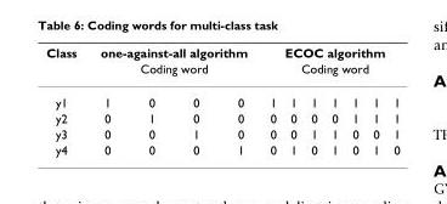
<table><thead><tr><td rowspan="3">Class y1</td><td rowspan="2" colspan="4">one-against-all algorithm Coding word</td><td rowspan="2" colspan="7">ECOC algorithm Coding word</td></tr><tr></tr><tr><td>1</td><td>0</td><td>0</td><td>0</td><td>1</td><td>1</td><td>1</td><td>1</td><td>1</td><td>1</td><td>1</td></tr></thead><tbody><tr><td>y2</td><td>0</td><td>1</td><td>0</td><td>0</td><td>0</td><td>0</td><td>0</td><td>0</td><td>1</td><td>1</td><td>1</td></tr><tr><td>y3</td><td>0</td><td>0</td><td>1</td><td>0</td><td>0</td><td>0</td><td>1</td><td>1</td><td>0</td><td>0</td><td>1</td></tr><tr><td>y4</td><td>0</td><td>0</td><td>0</td><td>1</td><td>0</td><td>1</td><td>0</td><td>1</td><td>0</td><td>1</td><td>0</td></tr></tbody></table>